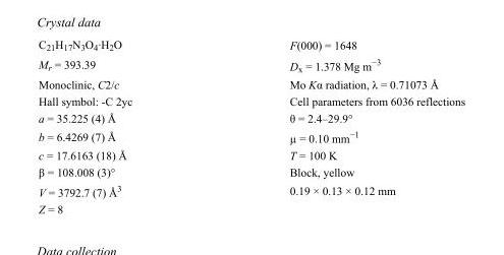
<table><tbody><tr><td>C<sub>21</sub>H<sub>17</sub>N<sub>3</sub>O<sub>4</sub>·H<sub>2</sub>O</td><td>F(000) = 1648</td></tr><tr><td>M<sub>r</sub> = 393.39</td><td>D<sub>x</sub> = 1.378 Mg m<sup>−3</sup></td></tr><tr><td>Monoclinic, C2/c</td><td>Mo Kα radiation, λ = 0.71073 Å</td></tr><tr><td>Hall symbol: -C 2yc</td><td>Cell parameters from 6036 reflections</td></tr><tr><td>a = 35.225 (4) Å</td><td>θ = 2.4–29.9°</td></tr><tr><td>b = 6.4269 (7) Å</td><td>µ = 0.10 mm<sup>−1</sup></td></tr><tr><td>c = 17.6163 (18) Å</td><td>T = 100 K</td></tr><tr><td>β = 108.008 (3)°</td><td>Block, yellow</td></tr><tr><td>V = 3792.7 (7) Å<sup>3</sup></td><td>0.19 × 0.13 × 0.12 mm</td></tr><tr><td>Z = 8</td><td></td></tr></tbody></table>